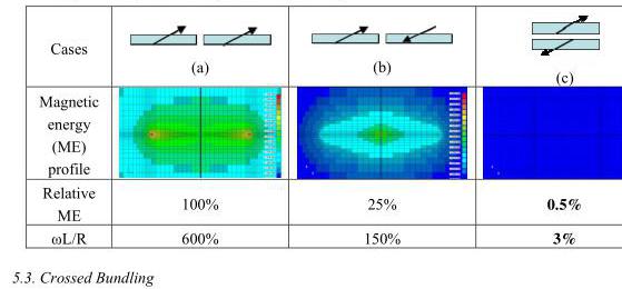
<table><tbody><tr><td>Cases</td><td>(a)</td><td>(b)</td><td>(c)</td></tr><tr><td colspan="4">Magnetic energy (ME) profile</td></tr><tr><td>Relative ME</td><td>100%</td><td>25%</td><td>0.5%</td></tr><tr><td>ωL/R</td><td>600%</td><td>150%</td><td>3%</td></tr></tbody></table>